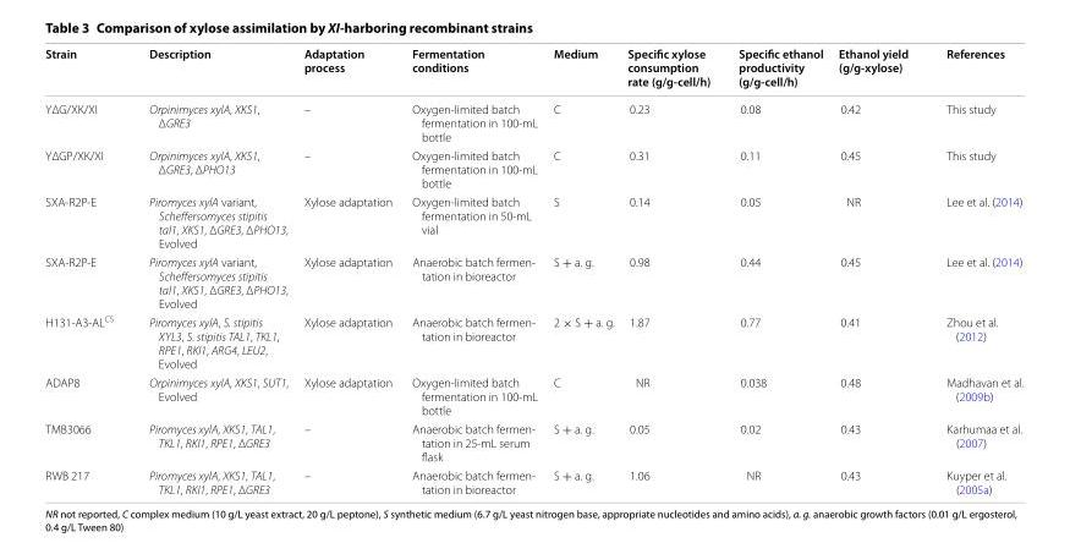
<table><thead><tr><td>Strain</td><td>Description</td><td>Adaptation process</td><td>Fermentation conditions</td><td>Medium</td><td>Specific xylose consumption rate (g/g‑cell/h)</td><td>Specific ethanol productivity (g/g‑cell/h)</td><td>Ethanol yield (g/g‑xylose)</td><td>References</td></tr></thead><tbody><tr><td>YΔG/XK/XI</td><td>Orpinimyces xylA, XKS1, ΔGRE3</td><td>–</td><td>Oxygen‑limited batch fermentation in 100‑mL bottle</td><td>C</td><td>0.23</td><td>0.08</td><td>0.42</td><td>This study</td></tr><tr><td>YΔGP/XK/XI</td><td>Orpinimyces xylA, XKS1, ΔGRE3, ΔPHO13</td><td>–</td><td>Oxygen‑limited batch fermentation in 100‑mL bottle</td><td>C</td><td>0.31</td><td>0.11</td><td>0.45</td><td>This study</td></tr><tr><td>SXA‑R2P‑E</td><td>Piromyces xylA variant, Scheffersomyces stipitis tal1, XKS1, ΔGRE3, ΔPHO13, Evolved</td><td>Xylose adaptation</td><td>Oxygen‑limited batch fermentation in 50‑mL vial</td><td>S</td><td>0.14</td><td>0.05</td><td>NR</td><td>Lee et al. (2014)</td></tr><tr><td>SXA‑R2P‑E</td><td>Piromyces xylA variant, Scheffersomyces stipitis tal1, XKS1, ΔGRE3, ΔPHO13, Evolved</td><td>Xylose adaptation</td><td>Anaerobic batch fermen‑ tation in bioreactor</td><td>S + a. g.</td><td>0.98</td><td>0.44</td><td>0.45</td><td>Lee et al. (2014)</td></tr><tr><td>H131‑A3‑AL<sup>CS</sup></td><td>Piromyces xylA, S. stipitis XYL3, S. stipitis TAL1, TKL1, RPE1, RKI1, ARG4, LEU2, Evolved</td><td>Xylose adaptation</td><td>Anaerobic batch fermen‑ tation in bioreactor</td><td>2 × S + a. g.</td><td>1.87</td><td>0.77</td><td>0.41</td><td>Zhou et al. (2012)</td></tr><tr><td>ADAP8</td><td>Orpinimyces xylA, XKS1, SUT1, Evolved</td><td>Xylose adaptation</td><td>Oxygen‑limited batch fermentation in 100‑mL bottle</td><td>C</td><td>NR</td><td>0.038</td><td>0.48</td><td>Madhavan et al. (2009b)</td></tr><tr><td>TMB3066</td><td>Piromyces xylA, XKS1, TAL1, TKL1, RKI1, RPE1, ΔGRE3</td><td>–</td><td>Anaerobic batch fermen‑ tation in 25‑mL serum flask</td><td>S + a. g.</td><td>0.05</td><td>0.02</td><td>0.43</td><td>Karhumaa et al. (2007)</td></tr><tr><td>RWB 217</td><td>Piromyces xylA, XKS1, TAL1, TKL1, RKI1, RPE1, ΔGRE3</td><td>–</td><td>Anaerobic batch fermen‑ tation in bioreactor</td><td>S + a. g.</td><td>1.06</td><td>NR</td><td>0.43</td><td>Kuyper et al. (2005a)</td></tr></tbody></table>